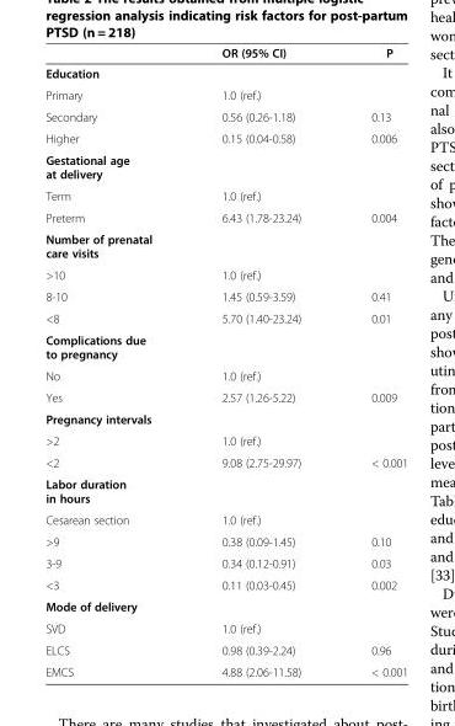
<table><thead><tr><td></td><td>OR (95% CI)</td><td>P</td></tr></thead><tbody><tr><td colspan="3">Education</td></tr><tr><td>Primary</td><td>1.0 (ref.)</td><td></td></tr><tr><td>Secondary</td><td>0.56 (0.26-1.18)</td><td>0.13</td></tr><tr><td>Higher</td><td>0.15 (0.04-0.58)</td><td>0.006</td></tr><tr><td colspan="3">Gestational age at delivery</td></tr><tr><td>Term</td><td>1.0 (ref.)</td><td></td></tr><tr><td>Preterm</td><td>6.43 (1.78-23.24)</td><td>0.004</td></tr><tr><td colspan="3">Number of prenatal care visits</td></tr><tr><td>&gt;10</td><td>1.0 (ref.)</td><td></td></tr><tr><td>8-10</td><td>1.45 (0.59-3.59)</td><td>0.41</td></tr><tr><td>&lt;8</td><td>5.70 (1.40-23.24)</td><td>0.01</td></tr><tr><td colspan="3">Complications due to pregnancy</td></tr><tr><td>No</td><td>1.0 (ref.)</td><td></td></tr><tr><td>Yes</td><td>2.57 (1.26-5.22)</td><td>0.009</td></tr><tr><td colspan="3">Pregnancy intervals</td></tr><tr><td>&gt;2</td><td>1.0 (ref.)</td><td></td></tr><tr><td>&lt;2</td><td>9.08 (2.75-29.97)</td><td>&lt; 0.001</td></tr><tr><td colspan="3">Labor duration in hours</td></tr><tr><td>Cesarean section</td><td>1.0 (ref.)</td><td></td></tr><tr><td>&gt;9</td><td>0.38 (0.09-1.45)</td><td>0.10</td></tr><tr><td>3-9</td><td>0.34 (0.12-0.91)</td><td>0.03</td></tr><tr><td>&lt;3</td><td>0.11 (0.03-0.45)</td><td>0.002</td></tr><tr><td colspan="3">Mode of delivery</td></tr><tr><td>SVD</td><td>1.0 (ref.)</td><td></td></tr><tr><td>ELCS</td><td>0.98 (0.39-2.24)</td><td>0.96</td></tr><tr><td>EMCS</td><td>4.88 (2.06-11.58)</td><td>&lt; 0.001</td></tr></tbody></table>